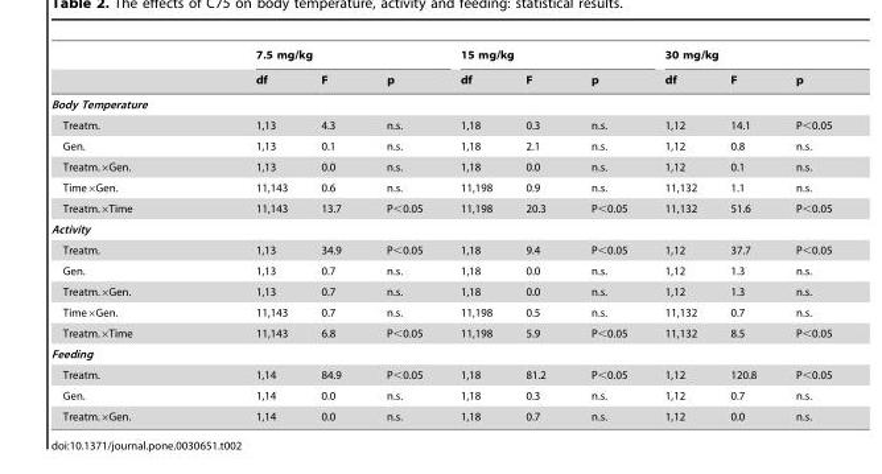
<table><thead><tr><td rowspan="2"></td><td colspan="3">7.5 mg/kg</td><td colspan="3">15 mg/kg</td><td colspan="3">30 mg/kg</td></tr><tr><td>df</td><td>F</td><td>p</td><td>df</td><td>F</td><td>p</td><td>df</td><td>F</td><td>p</td></tr></thead><tbody><tr><td colspan="10">Body Temperature</td></tr><tr><td>Treatm.</td><td>1,13</td><td>4.3</td><td>n.s.</td><td>1,18</td><td>0.3</td><td>n.s.</td><td>1,12</td><td>14.1</td><td>P&lt;0.05</td></tr><tr><td>Gen.</td><td>1,13</td><td>0.1</td><td>n.s.</td><td>1,18</td><td>2.1</td><td>n.s.</td><td>1,12</td><td>0.8</td><td>n.s.</td></tr><tr><td>Treatm.×Gen.</td><td>1,13</td><td>0.0</td><td>n.s.</td><td>1,18</td><td>0.0</td><td>n.s.</td><td>1,12</td><td>0.1</td><td>n.s.</td></tr><tr><td>Time×Gen.</td><td>11,143</td><td>0.6</td><td>n.s.</td><td>11,198</td><td>0.9</td><td>n.s.</td><td>11,132</td><td>1.1</td><td>n.s.</td></tr><tr><td>Treatm.×Time</td><td>11,143</td><td>13.7</td><td>P&lt;0.05</td><td>11,198</td><td>20.3</td><td>P&lt;0.05</td><td>11,132</td><td>51.6</td><td>P&lt;0.05</td></tr><tr><td colspan="10">Activity</td></tr><tr><td>Treatm.</td><td>1,13</td><td>34.9</td><td>P&lt;0.05</td><td>1,18</td><td>9.4</td><td>P&lt;0.05</td><td>1,12</td><td>37.7</td><td>P&lt;0.05</td></tr><tr><td>Gen.</td><td>1,13</td><td>0.7</td><td>n.s.</td><td>1,18</td><td>0.0</td><td>n.s.</td><td>1,12</td><td>1.3</td><td>n.s.</td></tr><tr><td>Treatm.×Gen.</td><td>1,13</td><td>0.7</td><td>n.s.</td><td>1,18</td><td>0.0</td><td>n.s.</td><td>1,12</td><td>1.3</td><td>n.s.</td></tr><tr><td>Time×Gen.</td><td>11,143</td><td>0.7</td><td>n.s.</td><td>11,198</td><td>0.5</td><td>n.s.</td><td>11,132</td><td>0.7</td><td>n.s.</td></tr><tr><td>Treatm.×Time</td><td>11,143</td><td>6.8</td><td>P&lt;0.05</td><td>11,198</td><td>5.9</td><td>P&lt;0.05</td><td>11,132</td><td>8.5</td><td>P&lt;0.05</td></tr><tr><td colspan="10">Feeding</td></tr><tr><td>Treatm.</td><td>1,14</td><td>84.9</td><td>P&lt;0.05</td><td>1,18</td><td>81.2</td><td>P&lt;0.05</td><td>1,12</td><td>120.8</td><td>P&lt;0.05</td></tr><tr><td>Gen.</td><td>1,14</td><td>0.0</td><td>n.s.</td><td>1,18</td><td>0.3</td><td>n.s.</td><td>1,12</td><td>0.7</td><td>n.s.</td></tr><tr><td>Treatm.×Gen.</td><td>1,14</td><td>0.0</td><td>n.s.</td><td>1,18</td><td>0.7</td><td>n.s.</td><td>1,12</td><td>0.0</td><td>n.s.</td></tr></tbody></table>